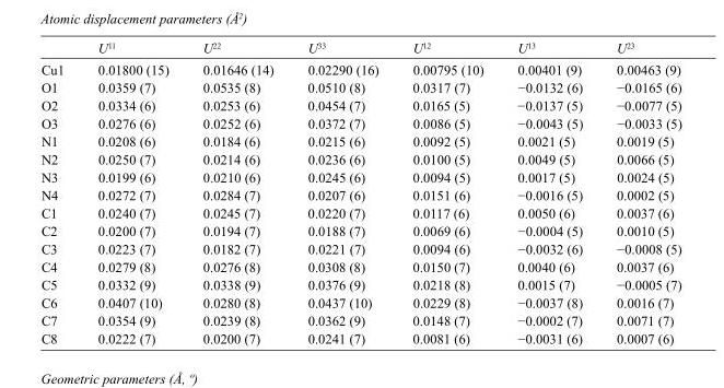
<table><thead><tr><td></td><td>U<sup>11</sup></td><td>U<sup>22</sup></td><td>U<sup>33</sup></td><td>U<sup>12</sup></td><td>U<sup>13</sup></td><td>U<sup>23</sup></td></tr></thead><tbody><tr><td>Cu1</td><td>0.01800 (15)</td><td>0.01646 (14)</td><td>0.02290 (16)</td><td>0.00795 (10)</td><td>0.00401 (9)</td><td>0.00463 (9)</td></tr><tr><td>O1</td><td>0.0359 (7)</td><td>0.0535 (8)</td><td>0.0510 (8)</td><td>0.0317 (7)</td><td>−0.0132 (6)</td><td>−0.0165 (6)</td></tr><tr><td>O2</td><td>0.0334 (6)</td><td>0.0253 (6)</td><td>0.0454 (7)</td><td>0.0165 (5)</td><td>−0.0137 (5)</td><td>−0.0077 (5)</td></tr><tr><td>O3</td><td>0.0276 (6)</td><td>0.0252 (6)</td><td>0.0372 (7)</td><td>0.0086 (5)</td><td>−0.0043 (5)</td><td>−0.0033 (5)</td></tr><tr><td>N1</td><td>0.0208 (6)</td><td>0.0184 (6)</td><td>0.0215 (6)</td><td>0.0092 (5)</td><td>0.0021 (5)</td><td>0.0019 (5)</td></tr><tr><td>N2</td><td>0.0250 (7)</td><td>0.0214 (6)</td><td>0.0236 (6)</td><td>0.0100 (5)</td><td>0.0049 (5)</td><td>0.0066 (5)</td></tr><tr><td>N3</td><td>0.0199 (6)</td><td>0.0210 (6)</td><td>0.0245 (6)</td><td>0.0094 (5)</td><td>0.0017 (5)</td><td>0.0024 (5)</td></tr><tr><td>N4</td><td>0.0272 (7)</td><td>0.0284 (7)</td><td>0.0207 (6)</td><td>0.0151 (6)</td><td>−0.0016 (5)</td><td>0.0002 (5)</td></tr><tr><td>C1</td><td>0.0240 (7)</td><td>0.0245 (7)</td><td>0.0220 (7)</td><td>0.0117 (6)</td><td>0.0050 (6)</td><td>0.0037 (6)</td></tr><tr><td>C2</td><td>0.0200 (7)</td><td>0.0194 (7)</td><td>0.0188 (7)</td><td>0.0069 (6)</td><td>−0.0004 (5)</td><td>0.0010 (5)</td></tr><tr><td>C3</td><td>0.0223 (7)</td><td>0.0182 (7)</td><td>0.0221 (7)</td><td>0.0094 (6)</td><td>−0.0032 (6)</td><td>−0.0008 (5)</td></tr><tr><td>C4</td><td>0.0279 (8)</td><td>0.0276 (8)</td><td>0.0308 (8)</td><td>0.0150 (7)</td><td>0.0040 (6)</td><td>0.0037 (6)</td></tr><tr><td>C5</td><td>0.0332 (9)</td><td>0.0338 (9)</td><td>0.0376 (9)</td><td>0.0218 (8)</td><td>0.0015 (7)</td><td>−0.0005 (7)</td></tr><tr><td>C6</td><td>0.0407 (10)</td><td>0.0280 (8)</td><td>0.0437 (10)</td><td>0.0229 (8)</td><td>−0.0037 (8)</td><td>0.0016 (7)</td></tr><tr><td>C7</td><td>0.0354 (9)</td><td>0.0239 (8)</td><td>0.0362 (9)</td><td>0.0148 (7)</td><td>−0.0002 (7)</td><td>0.0071 (7)</td></tr><tr><td>C8</td><td>0.0222 (7)</td><td>0.0200 (7)</td><td>0.0241 (7)</td><td>0.0081 (6)</td><td>−0.0031 (6)</td><td>0.0007 (6)</td></tr></tbody></table>